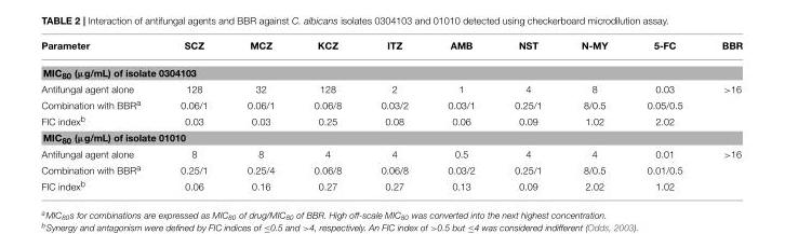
<table><thead><tr><td>Parameter</td><td>SCZ</td><td>MCZ</td><td>KCZ</td><td>ITZ</td><td>AMB</td><td>NST</td><td>N-MY</td><td>5-FC</td><td>BBR</td></tr></thead><tbody><tr><td colspan="10">MIC<sub>80</sub> (µg/mL) of isolate 0304103</td></tr><tr><td>Antifungal agent alone</td><td>128</td><td>32</td><td>128</td><td>2</td><td>1</td><td>4</td><td>8</td><td>0.03</td><td>&gt;16</td></tr><tr><td>Combination with BBR<sup>a</sup></td><td>0.06/1</td><td>0.06/1</td><td>0.06/8</td><td>0.03/2</td><td>0.03/1</td><td>0.25/1</td><td>8/0.5</td><td>0.05/0.5</td><td></td></tr><tr><td>FIC index<sup>b</sup></td><td>0.03</td><td>0.03</td><td>0.25</td><td>0.08</td><td>0.06</td><td>0.09</td><td>1.02</td><td>2.02</td><td></td></tr><tr><td colspan="10">MIC<sub>80</sub> (µg/mL) of isolate 01010</td></tr><tr><td>Antifungal agent alone</td><td>8</td><td>8</td><td>4</td><td>4</td><td>0.5</td><td>4</td><td>4</td><td>0.01</td><td>&gt;16</td></tr><tr><td>Combination with BBR<sup>a</sup></td><td>0.25/1</td><td>0.25/4</td><td>0.06/8</td><td>0.06/8</td><td>0.03/2</td><td>0.25/1</td><td>8/0.5</td><td>0.01/0.5</td><td></td></tr><tr><td>FIC index<sup>b</sup></td><td>0.06</td><td>0.16</td><td>0.27</td><td>0.27</td><td>0.13</td><td>0.09</td><td>2.02</td><td>1.02</td><td></td></tr></tbody></table>